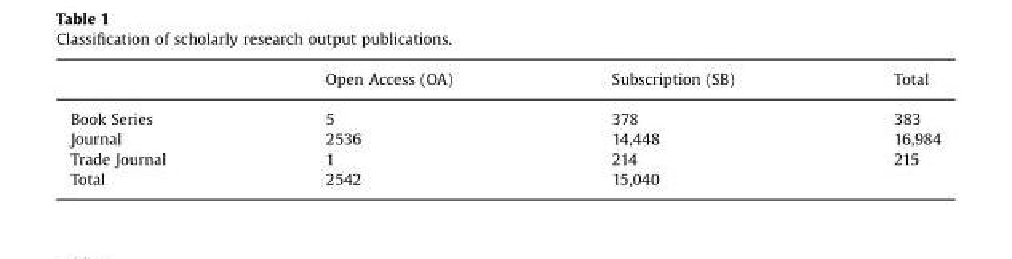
<table><thead><tr><td></td><td>Open Access (OA)</td><td>Subscription (SB)</td><td>Total</td></tr></thead><tbody><tr><td>Book Series</td><td>5</td><td>378</td><td>383</td></tr><tr><td>Journal</td><td>2536</td><td>14,448</td><td>16,984</td></tr><tr><td>Trade Journal</td><td>1</td><td>214</td><td>215</td></tr><tr><td>Total</td><td>2542</td><td>15,040</td><td></td></tr></tbody></table>